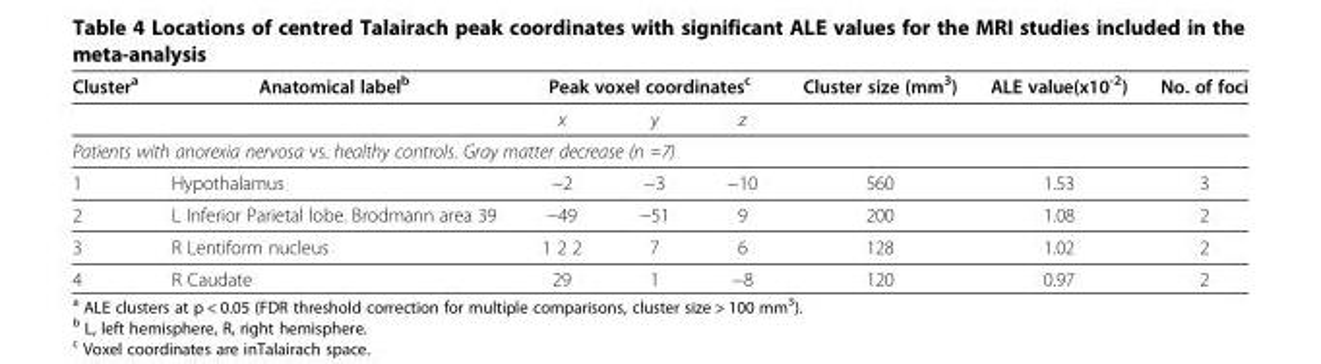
<table><thead><tr><td rowspan="2">Cluster<sup>a</sup></td><td rowspan="2">Anatomical label<sup>b</sup></td><td colspan="3">Peak voxel coordinates<sup>c</sup></td><td rowspan="2">Cluster size (mm<sup>3</sup>)</td><td rowspan="2">ALE value(x10<sup>-2</sup>)</td><td rowspan="2">No. of foci</td></tr><tr><td>x</td><td>y</td><td>z</td></tr></thead><tbody><tr><td colspan="8">Patients with anorexia nervosa vs. healthy controls. Gray matter decrease (n =7)</td></tr><tr><td>1</td><td>Hypothalamus</td><td>−2</td><td>−3</td><td>−10</td><td>560</td><td>1.53</td><td>3</td></tr><tr><td>2</td><td>L Inferior Parietal lobe. Brodmann area 39</td><td>−49</td><td>−51</td><td>9</td><td>200</td><td>1.08</td><td>2</td></tr><tr><td>3</td><td>R Lentiform nucleus</td><td>1 2 2</td><td>7</td><td>6</td><td>128</td><td>1.02</td><td>2</td></tr><tr><td>4</td><td>R Caudate</td><td>29</td><td>1</td><td>−8</td><td>120</td><td>0.97</td><td>2</td></tr></tbody></table>